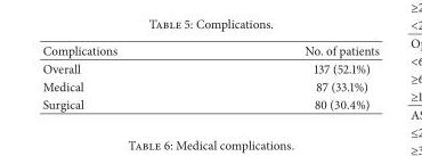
<table><thead><tr><td>Complications</td><td>No. of patients</td></tr></thead><tbody><tr><td>Overall</td><td>137 (52.1%)</td></tr><tr><td>Medical</td><td>87 (33.1%)</td></tr><tr><td>Surgical</td><td>80 (30.4%)</td></tr></tbody></table>